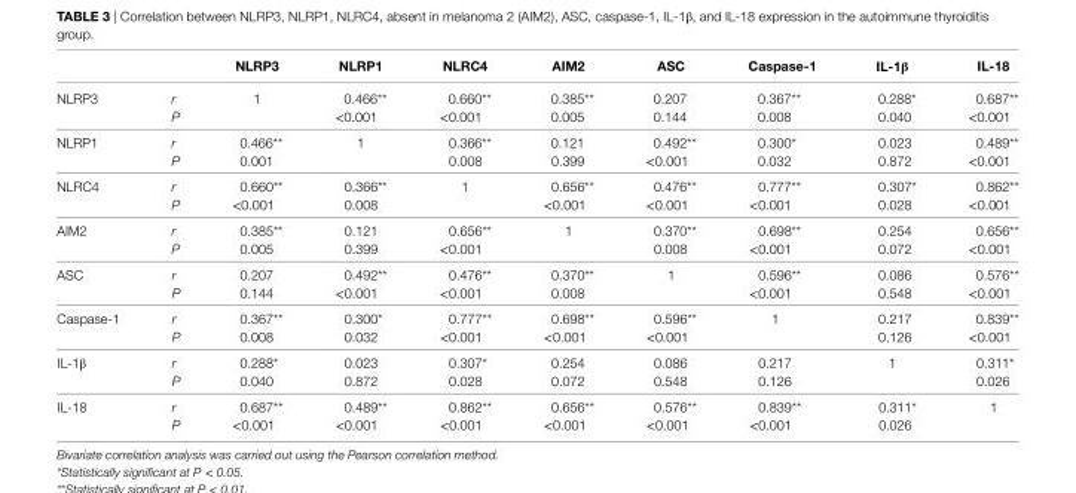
<table><thead><tr><td></td><td></td><td>nlrP3</td><td>nlrP1</td><td>nlrc4</td><td>aiM2</td><td>asc</td><td>caspase-1</td><td>il-1β</td><td>il-18</td></tr></thead><tbody><tr><td rowspan="2">NLRP3</td><td>r</td><td>1</td><td>0.466**</td><td>0.660**</td><td>0.385**</td><td>0.207</td><td>0.367**</td><td>0.288*</td><td>0.687**</td></tr><tr><td>P</td><td></td><td>&lt;0.001</td><td>&lt;0.001</td><td>0.005</td><td>0.144</td><td>0.008</td><td>0.040</td><td>&lt;0.001</td></tr><tr><td rowspan="2">NLRP1</td><td>r</td><td>0.466**</td><td>1</td><td>0.366**</td><td>0.121</td><td>0.492**</td><td>0.300*</td><td>0.023</td><td>0.489**</td></tr><tr><td>P</td><td>0.001</td><td></td><td>0.008</td><td>0.399</td><td>&lt;0.001</td><td>0.032</td><td>0.872</td><td>&lt;0.001</td></tr><tr><td rowspan="2">NLRC4</td><td>r</td><td>0.660**</td><td>0.366**</td><td>1</td><td>0.656**</td><td>0.476**</td><td>0.777**</td><td>0.307*</td><td>0.862**</td></tr><tr><td>P</td><td>&lt;0.001</td><td>0.008</td><td></td><td>&lt;0.001</td><td>&lt;0.001</td><td>&lt;0.001</td><td>0.028</td><td>&lt;0.001</td></tr><tr><td rowspan="2">AIM2</td><td>r</td><td>0.385**</td><td>0.121</td><td>0.656**</td><td>1</td><td>0.370**</td><td>0.698**</td><td>0.254</td><td>0.656**</td></tr><tr><td>P</td><td>0.005</td><td>0.399</td><td>&lt;0.001</td><td></td><td>0.008</td><td>&lt;0.001</td><td>0.072</td><td>&lt;0.001</td></tr><tr><td rowspan="2">ASC</td><td>r</td><td>0.207</td><td>0.492**</td><td>0.476**</td><td>0.370**</td><td>1</td><td>0.596**</td><td>0.086</td><td>0.576**</td></tr><tr><td>P</td><td>0.144</td><td>&lt;0.001</td><td>&lt;0.001</td><td>0.008</td><td></td><td>&lt;0.001</td><td>0.548</td><td>&lt;0.001</td></tr><tr><td rowspan="2">Caspase-1</td><td>r</td><td>0.367**</td><td>0.300*</td><td>0.777**</td><td>0.698**</td><td>0.596**</td><td>1</td><td>0.217</td><td>0.839**</td></tr><tr><td>P</td><td>0.008</td><td>0.032</td><td>&lt;0.001</td><td>&lt;0.001</td><td>&lt;0.001</td><td></td><td>0.126</td><td>&lt;0.001</td></tr><tr><td rowspan="2">IL-1β</td><td>r</td><td>0.288*</td><td>0.023</td><td>0.307*</td><td>0.254</td><td>0.086</td><td>0.217</td><td>1</td><td>0.311*</td></tr><tr><td>P</td><td>0.040</td><td>0.872</td><td>0.028</td><td>0.072</td><td>0.548</td><td>0.126</td><td></td><td>0.026</td></tr><tr><td rowspan="2">IL-18</td><td>r</td><td>0.687**</td><td>0.489**</td><td>0.862**</td><td>0.656**</td><td>0.576**</td><td>0.839**</td><td>0.311*</td><td>1</td></tr><tr><td>P</td><td>&lt;0.001</td><td>&lt;0.001</td><td>&lt;0.001</td><td>&lt;0.001</td><td>&lt;0.001</td><td>&lt;0.001</td><td>0.026</td><td></td></tr></tbody></table>